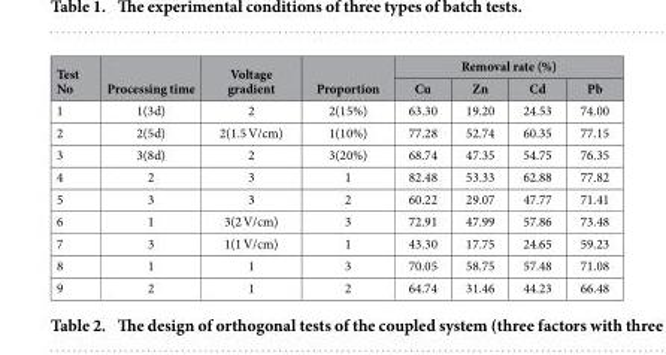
<table><thead><tr><td rowspan="2">Test No</td><td rowspan="2">Processing time</td><td rowspan="2">Voltage gradient</td><td rowspan="2">Proportion</td><td colspan="4">Removal rate (%)</td></tr><tr><td>Cu</td><td>Zn</td><td>Cd</td><td>Pb</td></tr></thead><tbody><tr><td>1</td><td>1(3d)</td><td>2</td><td>2(15%)</td><td>63.30</td><td>19.20</td><td>24.53</td><td>74.00</td></tr><tr><td>2</td><td>2(5d)</td><td>2(1.5 V/cm)</td><td>1(10%)</td><td>77.28</td><td>52.74</td><td>60.35</td><td>77.15</td></tr><tr><td>3</td><td>3(8d)</td><td>2</td><td>3(20%)</td><td>68.74</td><td>47.35</td><td>54.75</td><td>76.35</td></tr><tr><td>4</td><td>2</td><td>3</td><td>1</td><td>82.48</td><td>53.33</td><td>62.88</td><td>77.82</td></tr><tr><td>5</td><td>3</td><td>3</td><td>2</td><td>60.22</td><td>29.07</td><td>47.77</td><td>71.41</td></tr><tr><td>6</td><td>1</td><td>3(2 V/cm)</td><td>3</td><td>72.91</td><td>47.99</td><td>57.86</td><td>73.48</td></tr><tr><td>7</td><td>3</td><td>1(1 V/cm)</td><td>1</td><td>43.30</td><td>17.75</td><td>24.65</td><td>59.23</td></tr><tr><td>8</td><td>1</td><td>1</td><td>3</td><td>70.05</td><td>58.75</td><td>57.48</td><td>71.08</td></tr><tr><td>9</td><td>2</td><td>1</td><td>2</td><td>64.74</td><td>31.46</td><td>44.23</td><td>66.48</td></tr></tbody></table>